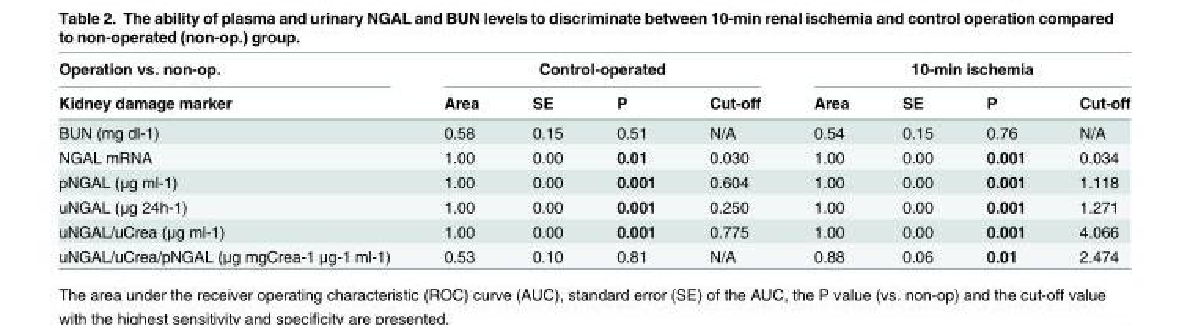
<table><thead><tr><td rowspan="2">Operation vs. non-op. Kidney damage marker</td><td colspan="4">Control-operated</td><td colspan="4">10-min ischemia</td></tr><tr><td>Area</td><td>SE</td><td>P</td><td>Cut-off</td><td>Area</td><td>SE</td><td>P</td><td>Cut-off</td></tr></thead><tbody><tr><td>BUN (mg dl-1)</td><td>0.58</td><td>0.15</td><td>0.51</td><td>N/A</td><td>0.54</td><td>0.15</td><td>0.76</td><td>N/A</td></tr><tr><td>NGAL mRNA</td><td>1.00</td><td>0.00</td><td>0.01</td><td>0.030</td><td>1.00</td><td>0.00</td><td>0.001</td><td>0.034</td></tr><tr><td>pNGAL (μg ml-1)</td><td>1.00</td><td>0.00</td><td>0.001</td><td>0.604</td><td>1.00</td><td>0.00</td><td>0.001</td><td>1.118</td></tr><tr><td>uNGAL (μg 24h-1)</td><td>1.00</td><td>0.00</td><td>0.001</td><td>0.250</td><td>1.00</td><td>0.00</td><td>0.001</td><td>1.271</td></tr><tr><td>uNGAL/uCrea (μg ml-1)</td><td>1.00</td><td>0.00</td><td>0.001</td><td>0.775</td><td>1.00</td><td>0.00</td><td>0.001</td><td>4.066</td></tr><tr><td>uNGAL/uCrea/pNGAL (μg mgCrea-1 μg-1 ml-1)</td><td>0.53</td><td>0.10</td><td>0.81</td><td>N/A</td><td>0.88</td><td>0.06</td><td>0.01</td><td>2.474</td></tr></tbody></table>